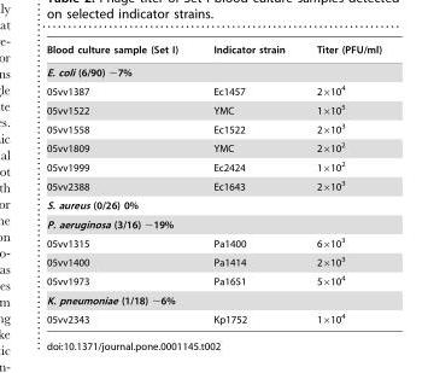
<table><thead><tr><td>Blood culture sample (Set I)</td><td>Indicator strain</td><td>Titer (PFU/ml)</td></tr></thead><tbody><tr><td colspan="3">E. coli (6/90) ∼7%</td></tr><tr><td>05vv1387</td><td>Ec1457</td><td>2×10<sup>4</sup></td></tr><tr><td>05vv1522</td><td>YMC</td><td>1×10<sup>5</sup></td></tr><tr><td>05vv1558</td><td>Ec1522</td><td>2×10<sup>3</sup></td></tr><tr><td>05vv1809</td><td>YMC</td><td>2×10<sup>2</sup></td></tr><tr><td>05vv1999</td><td>Ec2424</td><td>1×10<sup>2</sup></td></tr><tr><td>05vv2388</td><td>Ec1643</td><td>2×10<sup>3</sup></td></tr><tr><td colspan="3">S. aureus (0/26) 0%</td></tr><tr><td colspan="3">P. aeruginosa (3/16) ∼19%</td></tr><tr><td>05vv1315</td><td>Pa1400</td><td>6×10<sup>3</sup></td></tr><tr><td>05vv1400</td><td>Pa1414</td><td>2×10<sup>3</sup></td></tr><tr><td>05vv1973</td><td>Pa1651</td><td>5×10<sup>4</sup></td></tr><tr><td colspan="3">K. pneumoniae (1/18) ∼6%</td></tr><tr><td>05vv2343</td><td>Kp1752</td><td>1×10<sup>4</sup></td></tr></tbody></table>